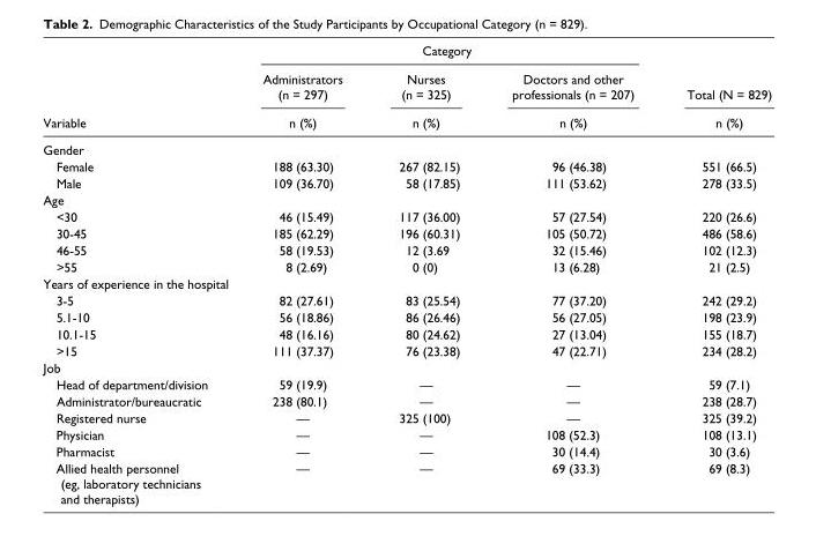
<table><thead><tr><td rowspan="3">Variable</td><td colspan="3">Category</td><td rowspan="3">Total (N = 829) n (%)</td></tr><tr><td rowspan="2">Administrators (n = 297) n (%)</td><td rowspan="2">Nurses (n = 325) n (%)</td><td rowspan="2">Doctors and other professionals (n = 207) n (%)</td></tr><tr></tr><tr><td colspan="5">Gender</td></tr></thead><tbody><tr><td>Female</td><td>188 (63.30)</td><td>267 (82.15)</td><td>96 (46.38)</td><td>551 (66.5)</td></tr><tr><td>Male</td><td>109 (36.70)</td><td>58 (17.85)</td><td>111 (53.62)</td><td>278 (33.5)</td></tr><tr><td colspan="5">Age</td></tr><tr><td>&lt;30</td><td>46 (15.49)</td><td>117 (36.00)</td><td>57 (27.54)</td><td>220 (26.6)</td></tr><tr><td>30-45</td><td>185 (62.29)</td><td>196 (60.31)</td><td>105 (50.72)</td><td>486 (58.6)</td></tr><tr><td>46-55</td><td>58 (19.53)</td><td>12 (3.69</td><td>32 (15.46)</td><td>102 (12.3)</td></tr><tr><td>&gt;55</td><td>8 (2.69)</td><td>0 (0)</td><td>13 (6.28)</td><td>21 (2.5)</td></tr><tr><td colspan="5">Years of experience in the hospital</td></tr><tr><td>3-5</td><td>82 (27.61)</td><td>83 (25.54)</td><td>77 (37.20)</td><td>242 (29.2)</td></tr><tr><td>5.1-10</td><td>56 (18.86)</td><td>86 (26.46)</td><td>56 (27.05)</td><td>198 (23.9)</td></tr><tr><td>10.1-15</td><td>48 (16.16)</td><td>80 (24.62)</td><td>27 (13.04)</td><td>155 (18.7)</td></tr><tr><td>&gt;15</td><td>111 (37.37)</td><td>76 (23.38)</td><td>47 (22.71)</td><td>234 (28.2)</td></tr><tr><td colspan="5">Job</td></tr><tr><td>Head of department/division</td><td>59 (19.9)</td><td>—</td><td>—</td><td>59 (7.1)</td></tr><tr><td>Administrator/bureaucratic</td><td>238 (80.1)</td><td>—</td><td>—</td><td>238 (28.7)</td></tr><tr><td>Registered nurse</td><td>—</td><td>325 (100)</td><td>—</td><td>325 (39.2)</td></tr><tr><td>Physician</td><td>—</td><td>—</td><td>108 (52.3)</td><td>108 (13.1)</td></tr><tr><td>Pharmacist</td><td>—</td><td>—</td><td>30 (14.4)</td><td>30 (3.6)</td></tr><tr><td>Allied health personnel (eg, laboratory technicians and therapists)</td><td>—</td><td>—</td><td>69 (33.3)</td><td>69 (8.3)</td></tr></tbody></table>